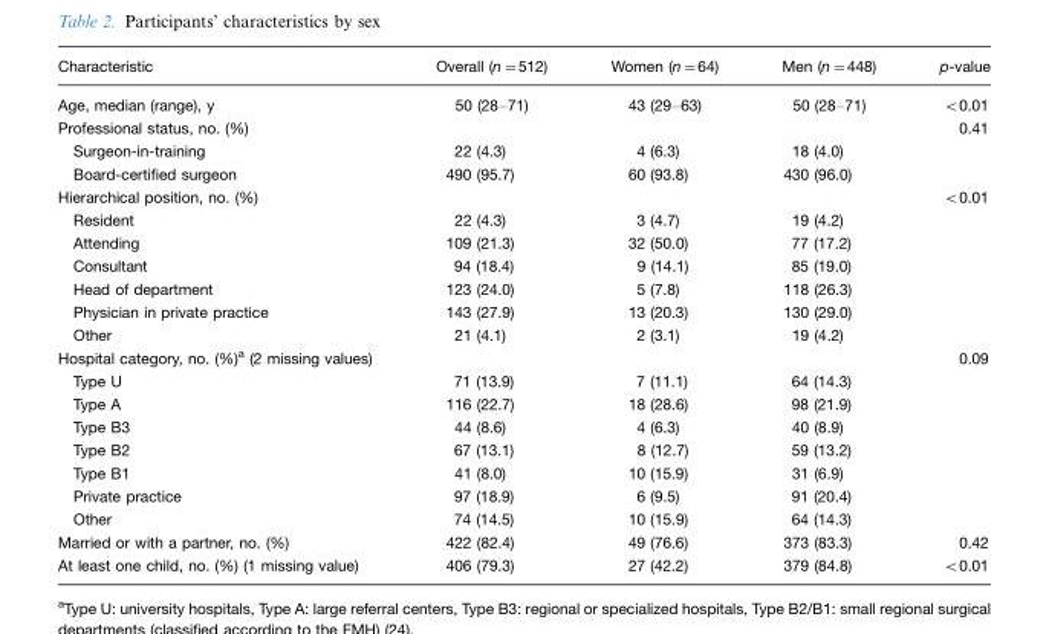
<table><thead><tr><td>Characteristic</td><td>Overall (n=512)</td><td>Women (n=64)</td><td>Men (n=448)</td><td>p-value</td></tr></thead><tbody><tr><td>Age, median (range), y</td><td>50 (28–71)</td><td>43 (29–63)</td><td>50 (28–71)</td><td>&lt;0.01</td></tr><tr><td>Professional status, no. (%)</td><td></td><td></td><td></td><td>0.41</td></tr><tr><td>Surgeon-in-training</td><td>22 (4.3)</td><td>4 (6.3)</td><td>18 (4.0)</td><td></td></tr><tr><td>Board-certified surgeon</td><td>490 (95.7)</td><td>60 (93.8)</td><td>430 (96.0)</td><td></td></tr><tr><td>Hierarchical position, no. (%)</td><td></td><td></td><td></td><td>&lt;0.01</td></tr><tr><td>Resident</td><td>22 (4.3)</td><td>3 (4.7)</td><td>19 (4.2)</td><td></td></tr><tr><td>Attending</td><td>109 (21.3)</td><td>32 (50.0)</td><td>77 (17.2)</td><td></td></tr><tr><td>Consultant</td><td>94 (18.4)</td><td>9 (14.1)</td><td>85 (19.0)</td><td></td></tr><tr><td>Head of department</td><td>123 (24.0)</td><td>5 (7.8)</td><td>118 (26.3)</td><td></td></tr><tr><td>Physician in private practice</td><td>143 (27.9)</td><td>13 (20.3)</td><td>130 (29.0)</td><td></td></tr><tr><td>Other</td><td>21 (4.1)</td><td>2 (3.1)</td><td>19 (4.2)</td><td></td></tr><tr><td>Hospital category, no. (%)<sup>a</sup> (2 missing values)</td><td></td><td></td><td></td><td>0.09</td></tr><tr><td>Type U</td><td>71 (13.9)</td><td>7 (11.1)</td><td>64 (14.3)</td><td></td></tr><tr><td>Type A</td><td>116 (22.7)</td><td>18 (28.6)</td><td>98 (21.9)</td><td></td></tr><tr><td>Type B3</td><td>44 (8.6)</td><td>4 (6.3)</td><td>40 (8.9)</td><td></td></tr><tr><td>Type B2</td><td>67 (13.1)</td><td>8 (12.7)</td><td>59 (13.2)</td><td></td></tr><tr><td>Type B1</td><td>41 (8.0)</td><td>10 (15.9)</td><td>31 (6.9)</td><td></td></tr><tr><td>Private practice</td><td>97 (18.9)</td><td>6 (9.5)</td><td>91 (20.4)</td><td></td></tr><tr><td>Other</td><td>74 (14.5)</td><td>10 (15.9)</td><td>64 (14.3)</td><td></td></tr><tr><td>Married or with a partner, no. (%)</td><td>422 (82.4)</td><td>49 (76.6)</td><td>373 (83.3)</td><td>0.42</td></tr><tr><td>At least one child, no. (%) (1 missing value)</td><td>406 (79.3)</td><td>27 (42.2)</td><td>379 (84.8)</td><td>&lt;0.01</td></tr></tbody></table>